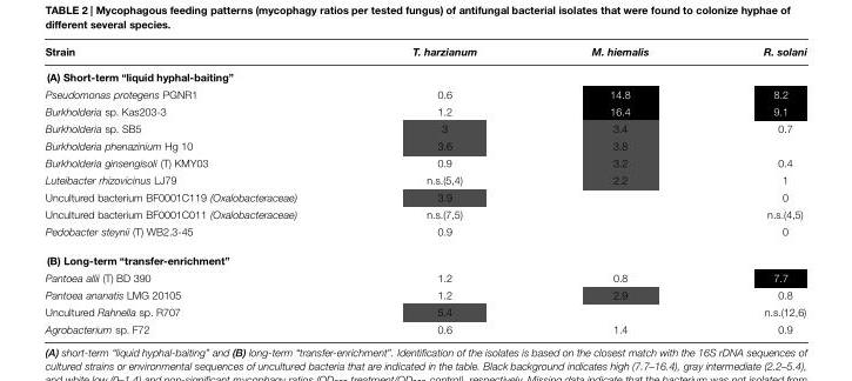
<table><thead><tr><td>Strain</td><td>T. harzianum</td><td>M. hiemalis</td><td>R. solani</td></tr></thead><tbody><tr><td colspan="4">(A) Short-term “liquid hyphal-baiting”</td></tr><tr><td>Pseudomonas protegens PGNR1</td><td>0.6</td><td>14.8</td><td>8.2</td></tr><tr><td>Burkholderia sp. Kas203-3</td><td>1.2</td><td>16.4</td><td>9.1</td></tr><tr><td>Burkholderia sp. SB5</td><td>3</td><td>3.4</td><td>0.7</td></tr><tr><td>Burkholderia phenazinium Hg 10</td><td>3.6</td><td>3.8</td><td></td></tr><tr><td>Burkholderia ginsengisoli (T) KMY03</td><td>0.9</td><td>3.2</td><td>0.4</td></tr><tr><td>Luteibacter rhizovicinus LJ79</td><td>n.s.(5,4)</td><td>2.2</td><td>1</td></tr><tr><td>Uncultured bacterium BF0001C119 (Oxalobacteraceae)</td><td>3.9</td><td></td><td>0</td></tr><tr><td>Uncultured bacterium BF0001C011 (Oxalobacteraceae)</td><td>n.s.(7,5)</td><td></td><td>n.s.(4,5)</td></tr><tr><td>Pedobacter steynii (T) WB2.3-45</td><td>0.9</td><td></td><td>0</td></tr><tr><td colspan="4">(B) Long-term “transfer-enrichment”</td></tr><tr><td>Pantoea allii (T) BD 390</td><td>1.2</td><td>0.8</td><td>7.7</td></tr><tr><td>Pantoea ananatis LMG 20105</td><td>1.2</td><td>2.9</td><td>0.8</td></tr><tr><td>Uncultured Rahnella sp. R707</td><td>5.4</td><td></td><td>n.s.(12,6)</td></tr><tr><td>Agrobacterium sp. F72</td><td>0.6</td><td>1.4</td><td>0.9</td></tr></tbody></table>